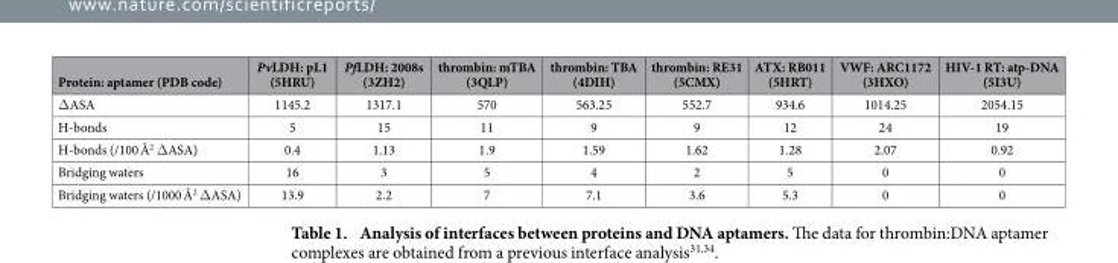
<table><thead><tr><td>Protein: aptamer (PDB code)</td><td>PvLDH: pL1 (5HRU)</td><td>PfLDH: 2008s (3ZH2)</td><td>thrombin: mTBA (3QLP)</td><td>thrombin: TBA (4DIH)</td><td>thrombin: RE31 (5CMX)</td><td>ATX: RB011 (5HRT)</td><td>VWF: ARC1172 (3HXO)</td><td>HIV-1 RT: atp-DNA (5I3U)</td></tr></thead><tbody><tr><td>Δ ASA</td><td>1145.2</td><td>1317.1</td><td>570</td><td>563.25</td><td>552.7</td><td>934.6</td><td>1014.25</td><td>2054.15</td></tr><tr><td>H-bonds</td><td>5</td><td>15</td><td>11</td><td>9</td><td>9</td><td>12</td><td>24</td><td>19</td></tr><tr><td>H-bonds (/100 Å<sup>2</sup> Δ ASA)</td><td>0.4</td><td>1.13</td><td>1.9</td><td>1.59</td><td>1.62</td><td>1.28</td><td>2.07</td><td>0.92</td></tr><tr><td>Bridging waters</td><td>16</td><td>3</td><td>5</td><td>4</td><td>2</td><td>5</td><td>0</td><td>0</td></tr><tr><td>Bridging waters (/1000 Å<sup>2</sup> Δ ASA)</td><td>13.9</td><td>2.2</td><td>7</td><td>7.1</td><td>3.6</td><td>5.3</td><td>0</td><td>0</td></tr></tbody></table>